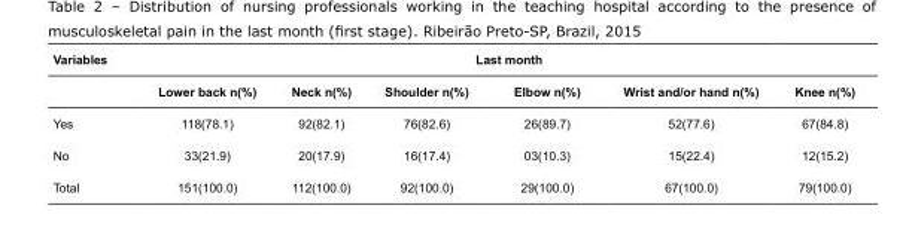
<table><tbody><tr><td rowspan="2">Variables</td><td colspan="6">Last month</td></tr><tr><td>Lower back n(%)</td><td>Neck n(%)</td><td>Shoulder n(%)</td><td>Elbow n(%)</td><td>Wrist and/or hand n(%)</td><td>Knee n(%)</td></tr><tr><td>Yes</td><td>118(78.1)</td><td>92(82.1)</td><td>76(82.6)</td><td>26(89.7)</td><td>52(77.6)</td><td>67(84.8)</td></tr><tr><td>No</td><td>33(21.9)</td><td>20(17.9)</td><td>16(17.4)</td><td>03(10.3)</td><td>15(22.4)</td><td>12(15.2)</td></tr><tr><td>Total</td><td>151(100.0)</td><td>112(100.0)</td><td>92(100.0)</td><td>29(100.0)</td><td>67(100.0)</td><td>79(100.0)</td></tr></tbody></table>